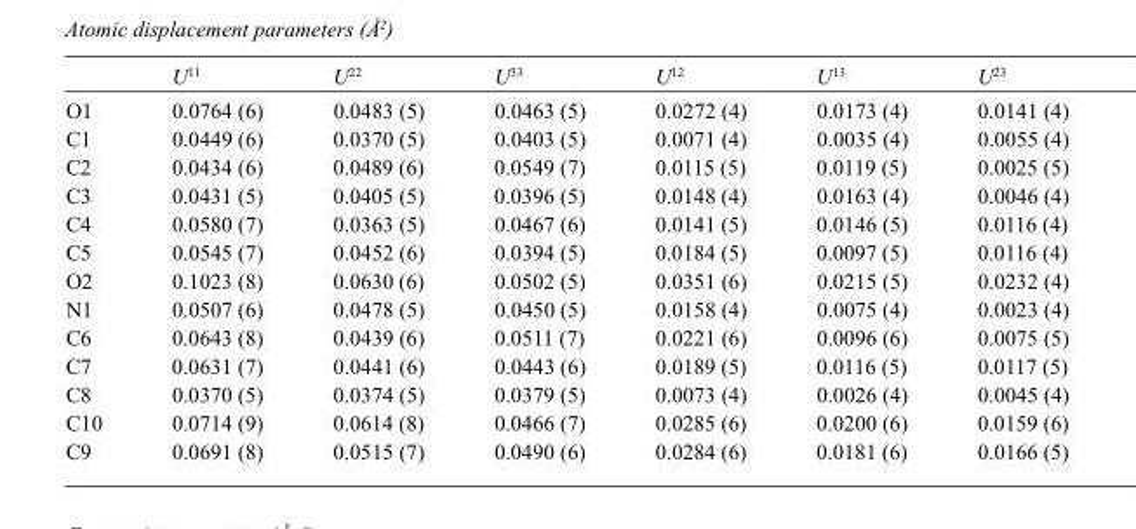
<table><thead><tr><td></td><td>U<sup>11</sup></td><td>U<sup>22</sup></td><td>U<sup>33</sup></td><td>U<sup>12</sup></td><td>U<sup>13</sup></td><td>U<sup>23</sup></td></tr></thead><tbody><tr><td>O1</td><td>0.0764 (6)</td><td>0.0483 (5)</td><td>0.0463 (5)</td><td>0.0272 (4)</td><td>0.0173 (4)</td><td>0.0141 (4)</td></tr><tr><td>C1</td><td>0.0449 (6)</td><td>0.0370 (5)</td><td>0.0403 (5)</td><td>0.0071 (4)</td><td>0.0035 (4)</td><td>0.0055 (4)</td></tr><tr><td>C2</td><td>0.0434 (6)</td><td>0.0489 (6)</td><td>0.0549 (7)</td><td>0.0115 (5)</td><td>0.0119 (5)</td><td>0.0025 (5)</td></tr><tr><td>C3</td><td>0.0431 (5)</td><td>0.0405 (5)</td><td>0.0396 (5)</td><td>0.0148 (4)</td><td>0.0163 (4)</td><td>0.0046 (4)</td></tr><tr><td>C4</td><td>0.0580 (7)</td><td>0.0363 (5)</td><td>0.0467 (6)</td><td>0.0141 (5)</td><td>0.0146 (5)</td><td>0.0116 (4)</td></tr><tr><td>C5</td><td>0.0545 (7)</td><td>0.0452 (6)</td><td>0.0394 (5)</td><td>0.0184 (5)</td><td>0.0097 (5)</td><td>0.0116 (4)</td></tr><tr><td>O2</td><td>0.1023 (8)</td><td>0.0630 (6)</td><td>0.0502 (5)</td><td>0.0351 (6)</td><td>0.0215 (5)</td><td>0.0232 (4)</td></tr><tr><td>N1</td><td>0.0507 (6)</td><td>0.0478 (5)</td><td>0.0450 (5)</td><td>0.0158 (4)</td><td>0.0075 (4)</td><td>0.0023 (4)</td></tr><tr><td>C6</td><td>0.0643 (8)</td><td>0.0439 (6)</td><td>0.0511 (7)</td><td>0.0221 (6)</td><td>0.0096 (6)</td><td>0.0075 (5)</td></tr><tr><td>C7</td><td>0.0631 (7)</td><td>0.0441 (6)</td><td>0.0443 (6)</td><td>0.0189 (5)</td><td>0.0116 (5)</td><td>0.0117 (5)</td></tr><tr><td>C8</td><td>0.0370 (5)</td><td>0.0374 (5)</td><td>0.0379 (5)</td><td>0.0073 (4)</td><td>0.0026 (4)</td><td>0.0045 (4)</td></tr><tr><td>C10</td><td>0.0714 (9)</td><td>0.0614 (8)</td><td>0.0466 (7)</td><td>0.0285 (6)</td><td>0.0200 (6)</td><td>0.0159 (6)</td></tr><tr><td>C9</td><td>0.0691 (8)</td><td>0.0515 (7)</td><td>0.0490 (6)</td><td>0.0284 (6)</td><td>0.0181 (6)</td><td>0.0166 (5)</td></tr></tbody></table>